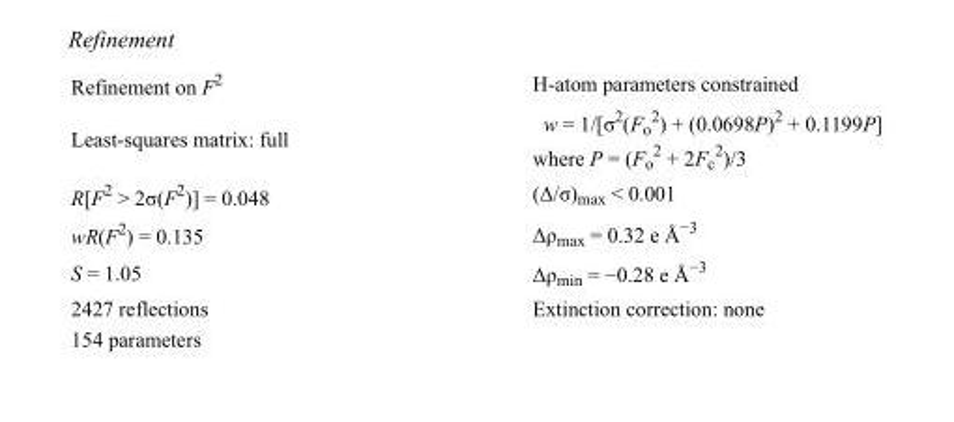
<table><tbody><tr><td>Refinement on F<sup>2</sup></td><td>H-atom parameters constrained</td></tr><tr><td>Least-squares matrix: full</td><td>w = 1/[σ<sup>2</sup>(F<sub>o</sub> <sup>2</sup>) + (0.0698P)<sup>2</sup> + 0.1199P] where P = (F<sub>o</sub> <sup>2</sup> + 2F<sub>c</sub> <sup>2</sup>)/3</td></tr><tr><td>R[F<sup>2</sup> &gt; 2σ(F<sup>2</sup>)] = 0.048</td><td>(Δ/σ)<sub>max</sub> &lt; 0.001</td></tr><tr><td>wR(F<sup>2</sup>) = 0.135</td><td>Δρ<sub>max</sub> = 0.32 e Å<sup>−3</sup></td></tr><tr><td>S = 1.05</td><td>Δρ<sub>min</sub> = −0.28 e Å<sup>−3</sup></td></tr><tr><td>2427 reflections</td><td>Extinction correction: none</td></tr><tr><td>154 parameters</td><td></td></tr></tbody></table>